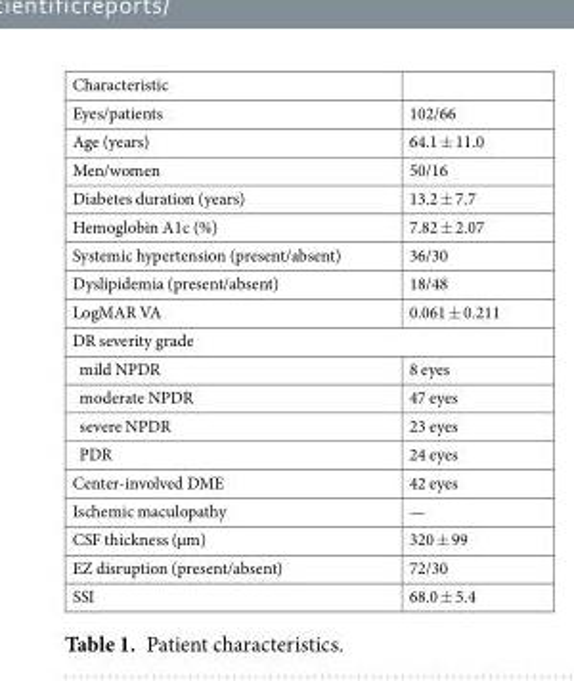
<table><tbody><tr><td colspan="2">Characteristic</td></tr><tr><td>Eyes/patients</td><td>102/66</td></tr><tr><td>Age (years)</td><td>64.1 ± 11.0</td></tr><tr><td>Men/women</td><td>50/16</td></tr><tr><td>Diabetes duration (years)</td><td>13.2 ± 7.7</td></tr><tr><td>Hemoglobin A1c (%)</td><td>7.82 ± 2.07</td></tr><tr><td>Systemic hypertension (present/absent)</td><td>36/30</td></tr><tr><td>Dyslipidemia (present/absent)</td><td>18/48</td></tr><tr><td>LogMAR VA</td><td>0.061 ± 0.211</td></tr><tr><td colspan="2">DR severity grade</td></tr><tr><td>mild NPDR</td><td>8 eyes</td></tr><tr><td>moderate NPDR</td><td>47 eyes</td></tr><tr><td>severe NPDR</td><td>23 eyes</td></tr><tr><td>PDR</td><td>24 eyes</td></tr><tr><td>Center-involved DME</td><td>42 eyes</td></tr><tr><td>Ischemic maculopathy</td><td>—</td></tr><tr><td>CSF thickness (µm)</td><td>320 ± 99</td></tr><tr><td>EZ disruption (present/absent)</td><td>72/30</td></tr><tr><td>SSI</td><td>68.0 ± 5.4</td></tr></tbody></table>